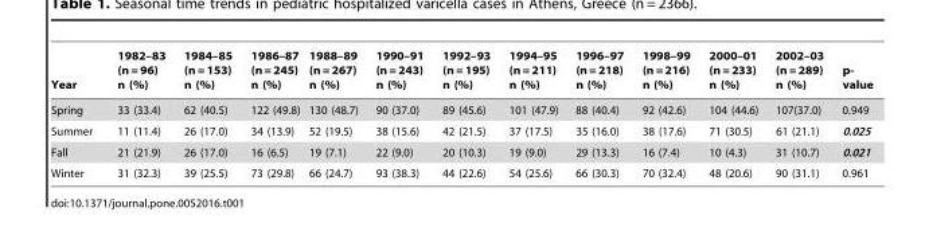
<table><thead><tr><td>Year</td><td>1982–83 (n = 96) n (%)</td><td>1984–85 (n = 153) n (%)</td><td>1986–87 (n = 245) n (%)</td><td>1988–89 (n = 267) n (%)</td><td>1990–91 (n = 243) n (%)</td><td>1992–93 (n = 195) n (%)</td><td>1994–95 (n = 211) n (%)</td><td>1996–97 (n = 218) n (%)</td><td>1998–99 (n = 216) n (%)</td><td>2000–01 (n = 233) n (%)</td><td>2002–03 (n = 289) n (%)</td><td>p- value</td></tr></thead><tbody><tr><td>Spring</td><td>33 (33.4)</td><td>62 (40.5)</td><td>122 (49.8)</td><td>130 (48.7)</td><td>90 (37.0)</td><td>89 (45.6)</td><td>101 (47.9)</td><td>88 (40.4)</td><td>92 (42.6)</td><td>104 (44.6)</td><td>107(37.0)</td><td>0.949</td></tr><tr><td>Summer</td><td>11 (11.4)</td><td>26 (17.0)</td><td>34 (13.9)</td><td>52 (19.5)</td><td>38 (15.6)</td><td>42 (21.5)</td><td>37 (17.5)</td><td>35 (16.0)</td><td>38 (17.6)</td><td>71 (30.5)</td><td>61 (21.1)</td><td>0.025</td></tr><tr><td>Fall</td><td>21 (21.9)</td><td>26 (17.0)</td><td>16 (6.5)</td><td>19 (7.1)</td><td>22 (9.0)</td><td>20 (10.3)</td><td>19 (9.0)</td><td>29 (13.3)</td><td>16 (7.4)</td><td>10 (4.3)</td><td>31 (10.7)</td><td>0.021</td></tr><tr><td>Winter</td><td>31 (32.3)</td><td>39 (25.5)</td><td>73 (29.8)</td><td>66 (24.7)</td><td>93 (38.3)</td><td>44 (22.6)</td><td>54 (25.6)</td><td>66 (30.3)</td><td>70 (32.4)</td><td>48 (20.6)</td><td>90 (31.1)</td><td>0.961</td></tr></tbody></table>